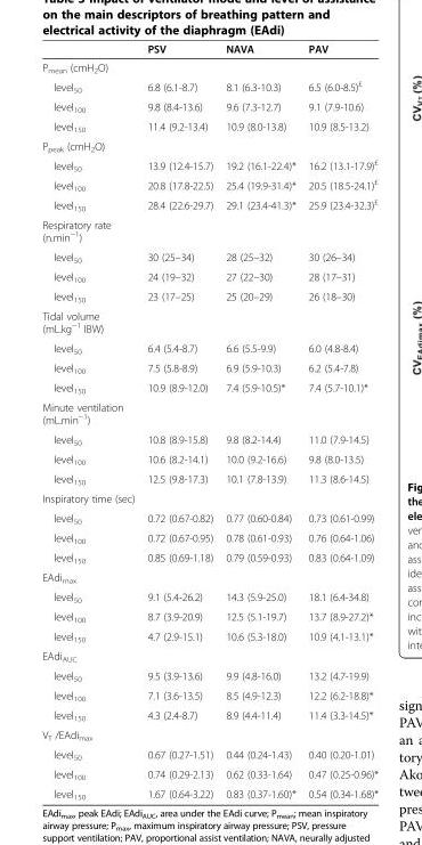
<table><thead><tr><td></td><td>PSV</td><td>NAVA</td><td>PAV</td></tr></thead><tbody><tr><td colspan="4">P<sub>mean</sub> (cmH<sub>2</sub>O)</td></tr><tr><td>level<sub>50</sub></td><td>6.8 (6.1-8.7)</td><td>8.1 (6.3-10.3)</td><td>6.5 (6.0-8.5)<sup>£</sup></td></tr><tr><td>level<sub>100</sub></td><td>9.8 (8.4-13.6)</td><td>9.6 (7.3-12.7)</td><td>9.1 (7.9-10.6)</td></tr><tr><td>level<sub>150</sub></td><td>11.4 (9.2-13.4)</td><td>10.9 (8.0-13.8)</td><td>10.9 (8.5-13.2)</td></tr><tr><td colspan="4">P<sub>peak</sub> (cmH<sub>2</sub>O)</td></tr><tr><td>level<sub>50</sub></td><td>13.9 (12.4-15.7)</td><td>19.2 (16.1-22.4)*</td><td>16.2 (13.1-17.9)<sup>£</sup></td></tr><tr><td>level<sub>100</sub></td><td>20.8 (17.8-22.5)</td><td>25.4 (19.9-31.4)*</td><td>20.5 (18.5-24.1)<sup>£</sup></td></tr><tr><td>level<sub>150</sub></td><td>28.4 (22.6-29.7)</td><td>29.1 (23.4-41.3)*</td><td>25.9 (23.4-32.3)<sup>£</sup></td></tr><tr><td colspan="4">Respiratory rate (n.min<sup>−1</sup>)</td></tr><tr><td>level<sub>50</sub></td><td>30 (25–34)</td><td>28 (25–32)</td><td>30 (26–34)</td></tr><tr><td>level<sub>100</sub></td><td>24 (19–32)</td><td>27 (22–30)</td><td>28 (17–31)</td></tr><tr><td>level<sub>150</sub></td><td>23 (17–25)</td><td>25 (20–29)</td><td>26 (18–30)</td></tr><tr><td colspan="4">Tidal volume (mL.kg<sup>−1</sup> IBW)</td></tr><tr><td>level<sub>50</sub></td><td>6.4 (5.4-8.7)</td><td>6.6 (5.5-9.9)</td><td>6.0 (4.8-8.4)</td></tr><tr><td>level<sub>100</sub></td><td>7.5 (5.8-8.9)</td><td>6.9 (5.9-10.3)</td><td>6.2 (5.4-7.8)</td></tr><tr><td>level<sub>150</sub></td><td>10.9 (8.9-12.0)</td><td>7.4 (5.9-10.5)*</td><td>7.4 (5.7-10.1)*</td></tr><tr><td colspan="4">Minute ventilation (mL.min<sup>−1</sup>)</td></tr><tr><td>level<sub>50</sub></td><td>10.8 (8.9-15.8)</td><td>9.8 (8.2-14.4)</td><td>11.0 (7.9-14.5)</td></tr><tr><td>level<sub>100</sub></td><td>10.6 (8.2-14.1)</td><td>10.0 (9.2-16.6)</td><td>9.8 (8.0-13.5)</td></tr><tr><td>level<sub>150</sub></td><td>12.5 (9.8-17.3)</td><td>10.1 (7.8-13.9)</td><td>11.3 (8.6-14.5)</td></tr><tr><td colspan="4">Inspiratory time (sec)</td></tr><tr><td>level<sub>50</sub></td><td>0.72 (0.67-0.82)</td><td>0.77 (0.60-0.84)</td><td>0.73 (0.61-0.99)</td></tr><tr><td>level<sub>100</sub></td><td>0.72 (0.67-0.95)</td><td>0.78 (0.61-0.93)</td><td>0.76 (0.64-1.06)</td></tr><tr><td>level<sub>150</sub></td><td>0.85 (0.69-1.18)</td><td>0.79 (0.59-0.93)</td><td>0.83 (0.64-1.09)</td></tr><tr><td colspan="4">EAdi<sub>max</sub></td></tr><tr><td>level<sub>50</sub></td><td>9.1 (5.4-26.2)</td><td>14.3 (5.9-25.0)</td><td>18.1 (6.4-34.8)</td></tr><tr><td>level<sub>100</sub></td><td>8.7 (3.9-20.9)</td><td>12.5 (5.1-19.7)</td><td>13.7 (8.9-27.2)*</td></tr><tr><td>level<sub>150</sub></td><td>4.7 (2.9-15.1)</td><td>10.6 (5.3-18.0)</td><td>10.9 (4.1-13.1)*</td></tr><tr><td colspan="4">EAdi<sub>AUC</sub></td></tr><tr><td>level<sub>50</sub></td><td>9.5 (3.9-13.6)</td><td>9.9 (4.8-16.0)</td><td>13.2 (4.7-19.9)</td></tr><tr><td>level<sub>100</sub></td><td>7.1 (3.6-13.5)</td><td>8.5 (4.9-12.3)</td><td>12.2 (6.2-18.8)*</td></tr><tr><td>level<sub>150</sub></td><td>4.3 (2.4-8.7)</td><td>8.9 (4.4-11.4)</td><td>11.4 (3.3-14.5)*</td></tr><tr><td colspan="4">V<sub>T</sub> /EAdi<sub>max</sub></td></tr><tr><td>level<sub>50</sub></td><td>0.67 (0.27-1.51)</td><td>0.44 (0.24-1.43)</td><td>0.40 (0.20-1.01)</td></tr><tr><td>level<sub>100</sub></td><td>0.74 (0.29-2.13)</td><td>0.62 (0.33-1.64)</td><td>0.47 (0.25-0.96)*</td></tr><tr><td>level<sub>150</sub></td><td>1.67 (0.64-3.22)</td><td>0.83 (0.37-1.60)*</td><td>0.54 (0.34-1.68)*</td></tr></tbody></table>